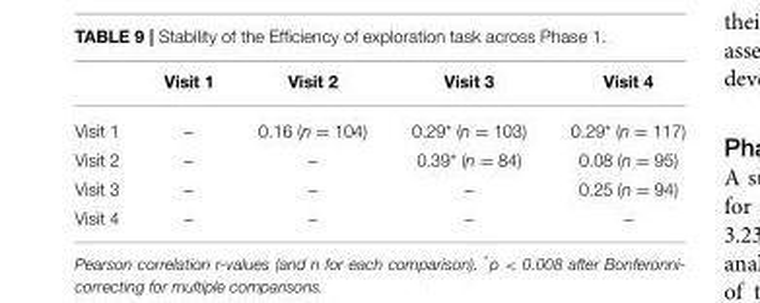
<table><thead><tr><td></td><td>Visit 1</td><td>Visit 2</td><td>Visit 3</td><td>Visit 4</td></tr></thead><tbody><tr><td>Visit 1</td><td>–</td><td>0.16 (n = 104)</td><td>0.29* (n = 103)</td><td>0.29* (n = 117)</td></tr><tr><td>Visit 2</td><td>–</td><td>–</td><td>0.39* (n = 84)</td><td>0.08 (n = 95)</td></tr><tr><td>Visit 3</td><td>–</td><td>–</td><td>–</td><td>0.25 (n = 94)</td></tr><tr><td>Visit 4</td><td>–</td><td>–</td><td>–</td><td>–</td></tr></tbody></table>